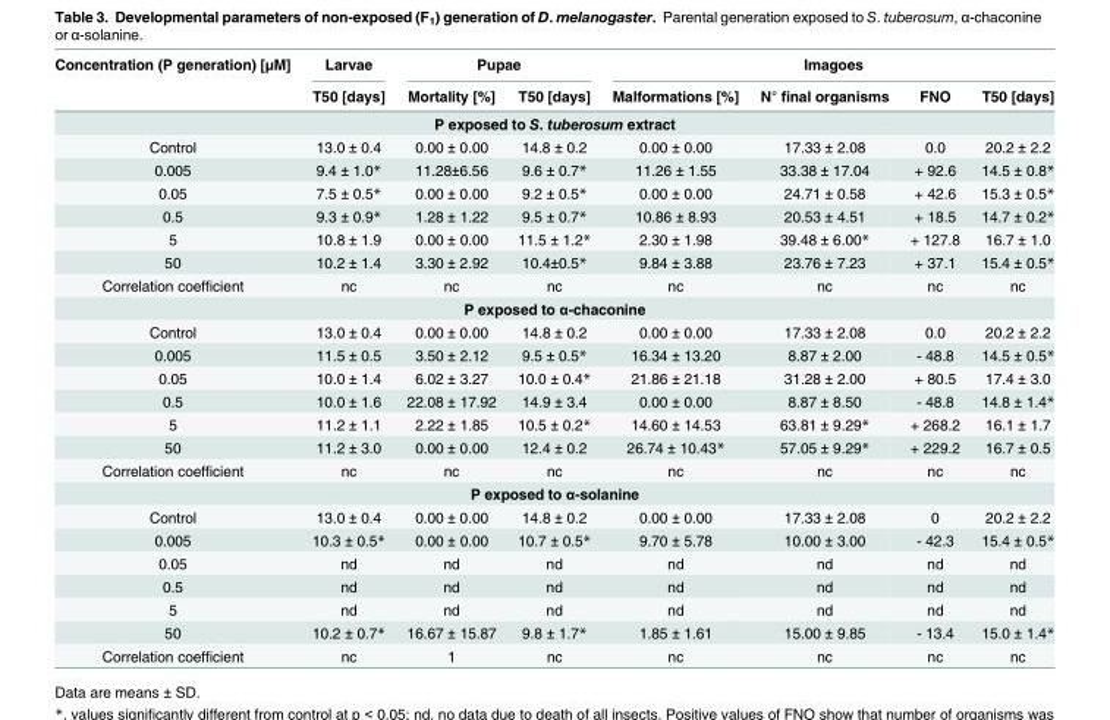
<table><thead><tr><td rowspan="2">Concentration (P generation) [μM]</td><td rowspan="2">Larvae T50 [days]</td><td colspan="2">Pupae</td><td colspan="4">Imagoes</td></tr><tr><td>Mortality [%]</td><td>T50 [days]</td><td>Malformations [%]</td><td>N° final organisms</td><td>FNO</td><td>T50 [days]</td></tr></thead><tbody><tr><td colspan="8">P exposed to S. tuberosum extract</td></tr><tr><td>Control</td><td>13.0 ± 0.4</td><td>0.00 ± 0.00</td><td>14.8 ± 0.2</td><td>0.00 ± 0.00</td><td>17.33 ± 2.08</td><td>0.0</td><td>20.2 ± 2.2</td></tr><tr><td>0.005</td><td>9.4 ± 1.0*</td><td>11.28±6.56</td><td>9.6 ± 0.7*</td><td>11.26 ± 1.55</td><td>33.38 ± 17.04</td><td>+ 92.6</td><td>14.5 ± 0.8*</td></tr><tr><td>0.05</td><td>7.5 ± 0.5*</td><td>0.00 ± 0.00</td><td>9.2 ± 0.5*</td><td>0.00 ± 0.00</td><td>24.71 ± 0.58</td><td>+ 42.6</td><td>15.3 ± 0.5*</td></tr><tr><td>0.5</td><td>9.3 ± 0.9*</td><td>1.28 ± 1.22</td><td>9.5 ± 0.7*</td><td>10.86 ± 8.93</td><td>20.53 ± 4.51</td><td>+ 18.5</td><td>14.7 ± 0.2*</td></tr><tr><td>5</td><td>10.8 ± 1.9</td><td>0.00 ± 0.00</td><td>11.5 ± 1.2*</td><td>2.30 ± 1.98</td><td>39.48 ± 6.00*</td><td>+ 127.8</td><td>16.7 ± 1.0</td></tr><tr><td>50</td><td>10.2 ± 1.4</td><td>3.30 ± 2.92</td><td>10.4±0.5*</td><td>9.84 ± 3.88</td><td>23.76 ± 7.23</td><td>+ 37.1</td><td>15.4 ± 0.5*</td></tr><tr><td>Correlation coefficient</td><td>nc</td><td>nc</td><td>nc</td><td>nc</td><td>nc</td><td>nc</td><td>nc</td></tr><tr><td colspan="8">P exposed to α-chaconine</td></tr><tr><td>Control</td><td>13.0 ± 0.4</td><td>0.00 ± 0.00</td><td>14.8 ± 0.2</td><td>0.00 ± 0.00</td><td>17.33 ± 2.08</td><td>0.0</td><td>20.2 ± 2.2</td></tr><tr><td>0.005</td><td>11.5 ± 0.5</td><td>3.50 ± 2.12</td><td>9.5 ± 0.5*</td><td>16.34 ± 13.20</td><td>8.87 ± 2.00</td><td>- 48.8</td><td>14.5 ± 0.5*</td></tr><tr><td>0.05</td><td>10.0 ± 1.4</td><td>6.02 ± 3.27</td><td>10.0 ± 0.4*</td><td>21.86 ± 21.18</td><td>31.28 ± 2.00</td><td>+ 80.5</td><td>17.4 ± 3.0</td></tr><tr><td>0.5</td><td>10.0 ± 1.6</td><td>22.08 ± 17.92</td><td>14.9 ± 3.4</td><td>0.00 ± 0.00</td><td>8.87 ± 8.50</td><td>- 48.8</td><td>14.8 ± 1.4*</td></tr><tr><td>5</td><td>11.2 ± 1.1</td><td>2.22 ± 1.85</td><td>10.5 ± 0.2*</td><td>14.60 ± 14.53</td><td>63.81 ± 9.29*</td><td>+ 268.2</td><td>16.1 ± 1.7</td></tr><tr><td>50</td><td>11.2 ± 3.0</td><td>0.00 ± 0.00</td><td>12.4 ± 0.2</td><td>26.74 ± 10.43*</td><td>57.05 ± 9.29*</td><td>+ 229.2</td><td>16.7 ± 0.5</td></tr><tr><td>Correlation coefficient</td><td>nc</td><td>nc</td><td>nc</td><td>nc</td><td>nc</td><td>nc</td><td>nc</td></tr><tr><td colspan="8">P exposed to α-solanine</td></tr><tr><td>Control</td><td>13.0 ± 0.4</td><td>0.00 ± 0.00</td><td>14.8 ± 0.2</td><td>0.00 ± 0.00</td><td>17.33 ± 2.08</td><td>0</td><td>20.2 ± 2.2</td></tr><tr><td>0.005</td><td>10.3 ± 0.5*</td><td>0.00 ± 0.00</td><td>10.7 ± 0.5*</td><td>9.70 ± 5.78</td><td>10.00 ± 3.00</td><td>- 42.3</td><td>15.4 ± 0.5*</td></tr><tr><td>0.05</td><td>nd</td><td>nd</td><td>nd</td><td>nd</td><td>nd</td><td>nd</td><td>nd</td></tr><tr><td>0.5</td><td>nd</td><td>nd</td><td>nd</td><td>nd</td><td>nd</td><td>nd</td><td>nd</td></tr><tr><td>5</td><td>nd</td><td>nd</td><td>nd</td><td>nd</td><td>nd</td><td>nd</td><td>nd</td></tr><tr><td>50</td><td>10.2 ± 0.7*</td><td>16.67 ± 15.87</td><td>9.8 ± 1.7*</td><td>1.85 ± 1.61</td><td>15.00 ± 9.85</td><td>- 13.4</td><td>15.0 ± 1.4*</td></tr><tr><td>Correlation coefficient</td><td>nc</td><td>1</td><td>nc</td><td>nc</td><td>nc</td><td>nc</td><td>nc</td></tr></tbody></table>